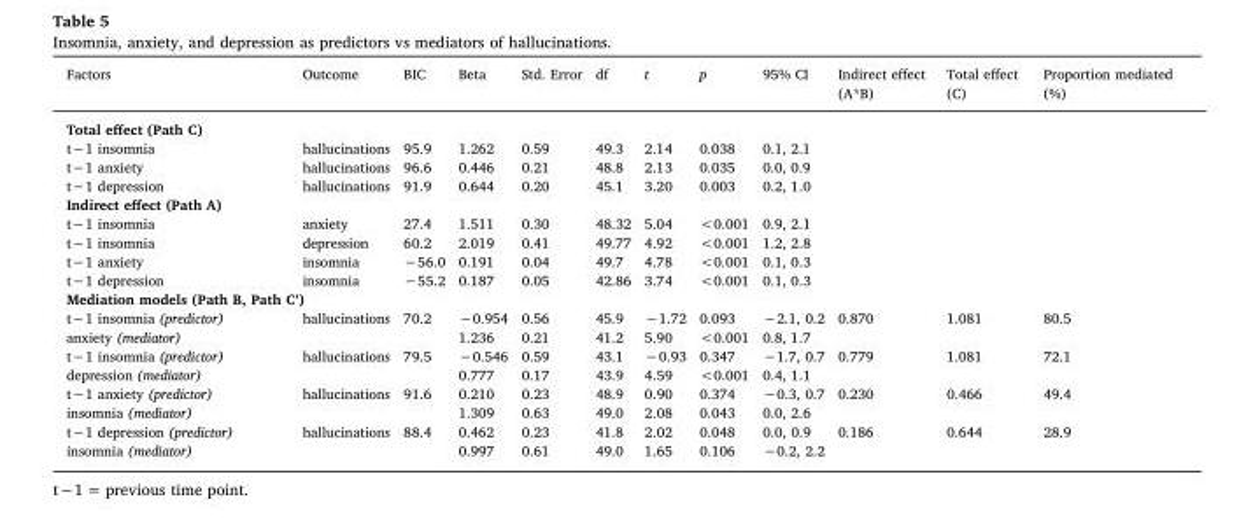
<table><thead><tr><td>Factors</td><td>Outcome</td><td>BIC</td><td>Beta</td><td>Std. Error</td><td>df</td><td>t</td><td>p</td><td>95% CI</td><td>Indirect effect (A*B)</td><td>Total effect (C)</td><td>Proportion mediated (%)</td></tr></thead><tbody><tr><td colspan="12">Total effect (Path C)</td></tr><tr><td>t−1 insomnia</td><td>hallucinations</td><td>95.9</td><td>1.262</td><td>0.59</td><td>49.3</td><td>2.14</td><td>0.038</td><td>0.1, 2.1</td><td></td><td></td><td></td></tr><tr><td>t−1 anxiety</td><td>hallucinations</td><td>96.6</td><td>0.446</td><td>0.21</td><td>48.8</td><td>2.13</td><td>0.035</td><td>0.0, 0.9</td><td></td><td></td><td></td></tr><tr><td>t−1 depression</td><td>hallucinations</td><td>91.9</td><td>0.644</td><td>0.20</td><td>45.1</td><td>3.20</td><td>0.003</td><td>0.2, 1.0</td><td></td><td></td><td></td></tr><tr><td colspan="12">Indirect effect (Path A)</td></tr><tr><td>t−1 insomnia</td><td>anxiety</td><td>27.4</td><td>1.511</td><td>0.30</td><td>48.32</td><td>5.04</td><td>&lt;0.001</td><td>0.9, 2.1</td><td></td><td></td><td></td></tr><tr><td>t−1 insomnia</td><td>depression</td><td>60.2</td><td>2.019</td><td>0.41</td><td>49.77</td><td>4.92</td><td>&lt;0.001</td><td>1.2, 2.8</td><td></td><td></td><td></td></tr><tr><td>t−1 anxiety</td><td>insomnia</td><td>−56.0</td><td>0.191</td><td>0.04</td><td>49.7</td><td>4.78</td><td>&lt;0.001</td><td>0.1, 0.3</td><td></td><td></td><td></td></tr><tr><td>t−1 depression</td><td>insomnia</td><td>−55.2</td><td>0.187</td><td>0.05</td><td>42.86</td><td>3.74</td><td>&lt;0.001</td><td>0.1, 0.3</td><td></td><td></td><td></td></tr><tr><td colspan="12">Mediation models (Path B, Path C’)</td></tr><tr><td>t−1 insomnia (predictor)</td><td>hallucinations</td><td>70.2</td><td>−0.954</td><td>0.56</td><td>45.9</td><td>−1.72</td><td>0.093</td><td>−2.1, 0.2</td><td>0.870</td><td>1.081</td><td>80.5</td></tr><tr><td>anxiety (mediator)</td><td></td><td></td><td>1.236</td><td>0.21</td><td>41.2</td><td>5.90</td><td>&lt;0.001</td><td>0.8, 1.7</td><td></td><td></td><td></td></tr><tr><td>t−1 insomnia (predictor)</td><td>hallucinations</td><td>79.5</td><td>−0.546</td><td>0.59</td><td>43.1</td><td>−0.93</td><td>0.347</td><td>−1.7, 0.7</td><td>0.779</td><td>1.081</td><td>72.1</td></tr><tr><td>depression (mediator)</td><td></td><td></td><td>0.777</td><td>0.17</td><td>43.9</td><td>4.59</td><td>&lt;0.001</td><td>0.4, 1.1</td><td></td><td></td><td></td></tr><tr><td>t−1 anxiety (predictor)</td><td>hallucinations</td><td>91.6</td><td>0.210</td><td>0.23</td><td>48.9</td><td>0.90</td><td>0.374</td><td>−0.3, 0.7</td><td>0.230</td><td>0.466</td><td>49.4</td></tr><tr><td>insomnia (mediator)</td><td></td><td></td><td>1.309</td><td>0.63</td><td>49.0</td><td>2.08</td><td>0.043</td><td>0.0, 2.6</td><td></td><td></td><td></td></tr><tr><td>t−1 depression (predictor)</td><td>hallucinations</td><td>88.4</td><td>0.462</td><td>0.23</td><td>41.8</td><td>2.02</td><td>0.048</td><td>0.0, 0.9</td><td>0.186</td><td>0.644</td><td>28.9</td></tr><tr><td>insomnia (mediator)</td><td></td><td></td><td>0.997</td><td>0.61</td><td>49.0</td><td>1.65</td><td>0.106</td><td>−0.2, 2.2</td><td></td><td></td><td></td></tr></tbody></table>